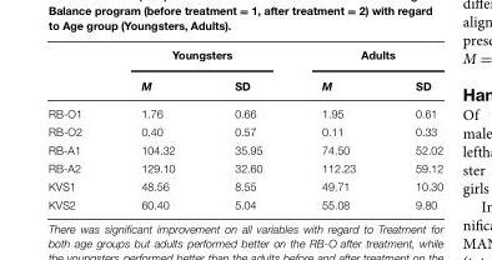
<table><thead><tr><td rowspan="2"></td><td colspan="2">Youngsters</td><td colspan="2">Adults</td></tr><tr><td>M</td><td>SD</td><td>M</td><td>SD</td></tr></thead><tbody><tr><td>RB-O1</td><td>1.76</td><td>0.66</td><td>1.95</td><td>0.61</td></tr><tr><td>RB-O2</td><td>0.40</td><td>0.57</td><td>0.11</td><td>0.33</td></tr><tr><td>RB-A1</td><td>104.32</td><td>35.95</td><td>74.50</td><td>52.02</td></tr><tr><td>RB-A2</td><td>129.10</td><td>32.60</td><td>112.23</td><td>59.12</td></tr><tr><td>KVS1</td><td>48.56</td><td>8.55</td><td>49.71</td><td>10.30</td></tr><tr><td>KVS2</td><td>60.40</td><td>5.04</td><td>55.08</td><td>9.80</td></tr></tbody></table>